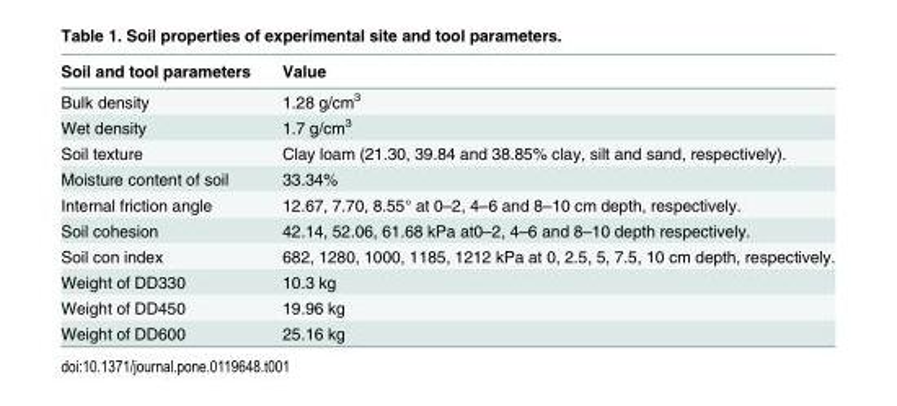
<table><thead><tr><td>Soil and tool parameters</td><td>Value</td></tr></thead><tbody><tr><td>Bulk density</td><td>1.28 g/cm<sup>3</sup></td></tr><tr><td>Wet density</td><td>1.7 g/cm<sup>3</sup></td></tr><tr><td>Soil texture</td><td>Clay loam (21.30, 39.84 and 38.85% clay, silt and sand, respectively).</td></tr><tr><td>Moisture content of soil</td><td>33.34%</td></tr><tr><td>Internal friction angle</td><td>12.67, 7.70, 8.55° at 0–2, 4–6 and 8–10 cm depth, respectively.</td></tr><tr><td>Soil cohesion</td><td>42.14, 52.06, 61.68 kPa at0–2, 4–6 and 8–10 depth respectively.</td></tr><tr><td>Soil con index</td><td>682, 1280, 1000, 1185, 1212 kPa at 0, 2.5, 5, 7.5, 10 cm depth, respectively.</td></tr><tr><td>Weight of DD330</td><td>10.3 kg</td></tr><tr><td>Weight of DD450</td><td>19.96 kg</td></tr><tr><td>Weight of DD600</td><td>25.16 kg</td></tr></tbody></table>